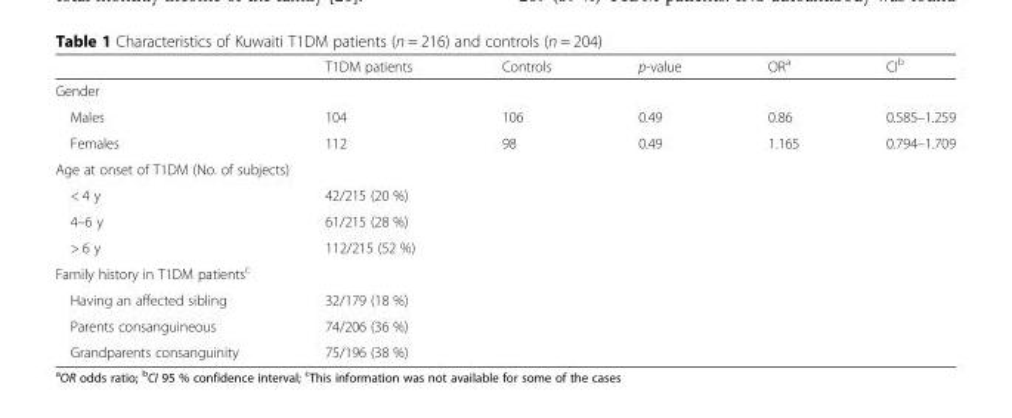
<table><thead><tr><td></td><td>T1DM patients</td><td>Controls</td><td>p-value</td><td>OR<sup>a</sup></td><td>CI<sup>b</sup></td></tr></thead><tbody><tr><td colspan="6">Gender</td></tr><tr><td>Males</td><td>104</td><td>106</td><td>0.49</td><td>0.86</td><td>0.585–1.259</td></tr><tr><td>Females</td><td>112</td><td>98</td><td>0.49</td><td>1.165</td><td>0.794–1.709</td></tr><tr><td colspan="6">Age at onset of T1DM (No. of subjects)</td></tr><tr><td>&lt; 4 y</td><td>42/215 (20 %)</td><td></td><td></td><td></td><td></td></tr><tr><td>4–6 y</td><td>61/215 (28 %)</td><td></td><td></td><td></td><td></td></tr><tr><td>&gt; 6 y</td><td>112/215 (52 %)</td><td></td><td></td><td></td><td></td></tr><tr><td colspan="6">Family history in T1DM patients<sup>c</sup></td></tr><tr><td>Having an affected sibling</td><td>32/179 (18 %)</td><td></td><td></td><td></td><td></td></tr><tr><td>Parents consanguineous</td><td>74/206 (36 %)</td><td></td><td></td><td></td><td></td></tr><tr><td>Grandparents consanguinity</td><td>75/196 (38 %)</td><td></td><td></td><td></td><td></td></tr></tbody></table>